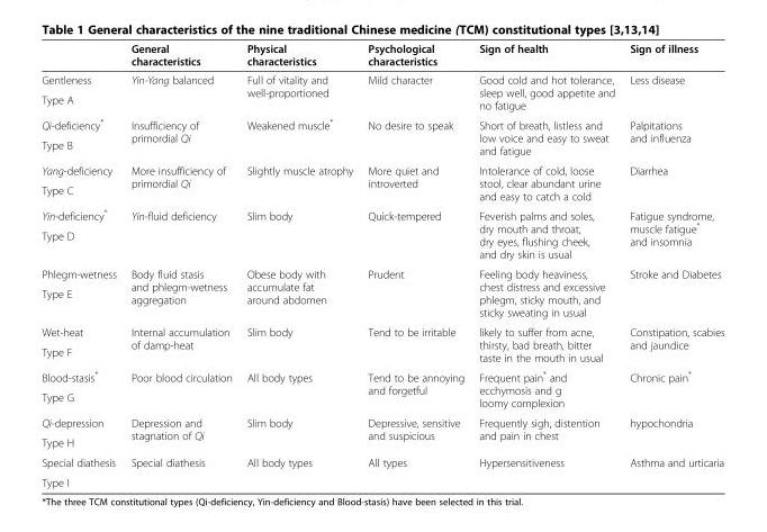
<table><thead><tr><td></td><td>General characteristics</td><td>Physical characteristics</td><td>Psychological characteristics</td><td>Sign of health</td><td>Sign of illness</td></tr></thead><tbody><tr><td>Gentleness</td><td rowspan="2">Yin-Yang balanced</td><td rowspan="2">Full of vitality and well-proportioned</td><td rowspan="2">Mild character</td><td rowspan="2">Good cold and hot tolerance, sleep well, good appetite and no fatigue</td><td rowspan="2">Less disease</td></tr><tr><td>Type A</td></tr><tr><td>Qi-deficiency*</td><td rowspan="2">Insufficiency of primordial Qi</td><td rowspan="2">Weakened muscle*</td><td rowspan="2">No desire to speak</td><td rowspan="2">Short of breath, listless and low voice and easy to sweat and fatigue</td><td rowspan="2">Palpitations and influenza</td></tr><tr><td>Type B</td></tr><tr><td>Yang-deficiency</td><td rowspan="2">More insufficiency of primordial Qi</td><td rowspan="2">Slightly muscle atrophy</td><td rowspan="2">More quiet and introverted</td><td rowspan="2">Intolerance of cold, loose stool, clear abundant urine and easy to catch a cold</td><td rowspan="2">Diarrhea</td></tr><tr><td>Type C</td></tr><tr><td>Yin-deficiency*</td><td rowspan="2">Yin-fluid deficiency</td><td rowspan="2">Slim body</td><td rowspan="2">Quick-tempered</td><td rowspan="2">Feverish palms and soles, dry mouth and throat, dry eyes, flushing cheek, and dry skin is usual</td><td rowspan="2">Fatigue syndrome, muscle fatigue* and insomnia</td></tr><tr><td>Type D</td></tr><tr><td>Phlegm-wetness</td><td rowspan="2">Body fluid stasis and phlegm-wetness aggregation</td><td rowspan="2">Obese body with accumulate fat around abdomen</td><td rowspan="2">Prudent</td><td rowspan="2">Feeling body heaviness, chest distress and excessive phlegm, sticky mouth, and sticky sweating in usual</td><td rowspan="2">Stroke and Diabetes</td></tr><tr><td>Type E</td></tr><tr><td>Wet-heat</td><td rowspan="2">Internal accumulation of damp-heat</td><td rowspan="2">Slim body</td><td rowspan="2">Tend to be irritable</td><td rowspan="2">likely to suffer from acne, thirsty, bad breath, bitter taste in the mouth in usual</td><td rowspan="2">Constipation, scabies and jaundice</td></tr><tr><td>Type F</td></tr><tr><td>Blood-stasis*</td><td rowspan="2">Poor blood circulation</td><td rowspan="2">All body types</td><td rowspan="2">Tend to be annoying and forgetful</td><td rowspan="2">Frequent pain* and ecchymosis and g loomy complexion</td><td rowspan="2">Chronic pain*</td></tr><tr><td>Type G</td></tr><tr><td>Qi-depression</td><td rowspan="2">Depression and stagnation of Qi</td><td rowspan="2">Slim body</td><td rowspan="2">Depressive, sensitive and suspicious</td><td rowspan="2">Frequently sigh, distention and pain in chest</td><td rowspan="2">hypochondria</td></tr><tr><td>Type H</td></tr><tr><td>Special diathesis</td><td rowspan="2">Special diathesis</td><td rowspan="2">All body types</td><td rowspan="2">All types</td><td rowspan="2">Hypersensitiveness</td><td rowspan="2">Asthma and urticaria</td></tr><tr><td>Type I</td></tr></tbody></table>